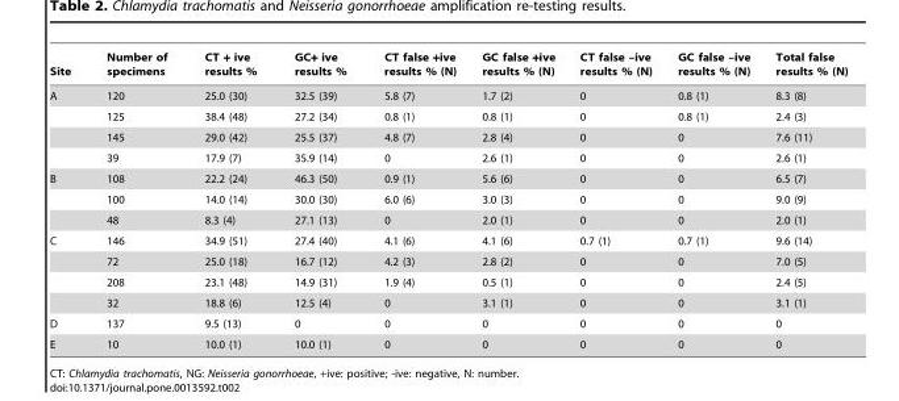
<table><thead><tr><td>Site</td><td>Number of specimens</td><td>CT + ive results %</td><td>GC+ ive results %</td><td>CT false +ive results % (N)</td><td>GC false +ive results % (N)</td><td>CT false –ive results % (N)</td><td>GC false –ive results % (N)</td><td>Total false results % (N)</td></tr></thead><tbody><tr><td rowspan="4">A</td><td>120</td><td>25.0 (30)</td><td>32.5 (39)</td><td>5.8 (7)</td><td>1.7 (2)</td><td>0</td><td>0.8 (1)</td><td>8.3 (8)</td></tr><tr><td>125</td><td>38.4 (48)</td><td>27.2 (34)</td><td>0.8 (1)</td><td>0.8 (1)</td><td>0</td><td>0.8 (1)</td><td>2.4 (3)</td></tr><tr><td>145</td><td>29.0 (42)</td><td>25.5 (37)</td><td>4.8 (7)</td><td>2.8 (4)</td><td>0</td><td>0</td><td>7.6 (11)</td></tr><tr><td>39</td><td>17.9 (7)</td><td>35.9 (14)</td><td>0</td><td>2.6 (1)</td><td>0</td><td>0</td><td>2.6 (1)</td></tr><tr><td rowspan="3">B</td><td>108</td><td>22.2 (24)</td><td>46.3 (50)</td><td>0.9 (1)</td><td>5.6 (6)</td><td>0</td><td>0</td><td>6.5 (7)</td></tr><tr><td>100</td><td>14.0 (14)</td><td>30.0 (30)</td><td>6.0 (6)</td><td>3.0 (3)</td><td>0</td><td>0</td><td>9.0 (9)</td></tr><tr><td>48</td><td>8.3 (4)</td><td>27.1 (13)</td><td>0</td><td>2.0 (1)</td><td>0</td><td>0</td><td>2.0 (1)</td></tr><tr><td rowspan="4">C</td><td>146</td><td>34.9 (51)</td><td>27.4 (40)</td><td>4.1 (6)</td><td>4.1 (6)</td><td>0.7 (1)</td><td>0.7 (1)</td><td>9.6 (14)</td></tr><tr><td>72</td><td>25.0 (18)</td><td>16.7 (12)</td><td>4.2 (3)</td><td>2.8 (2)</td><td>0</td><td>0</td><td>7.0 (5)</td></tr><tr><td>208</td><td>23.1 (48)</td><td>14.9 (31)</td><td>1.9 (4)</td><td>0.5 (1)</td><td>0</td><td>0</td><td>2.4 (5)</td></tr><tr><td>32</td><td>18.8 (6)</td><td>12.5 (4)</td><td>0</td><td>3.1 (1)</td><td>0</td><td>0</td><td>3.1 (1)</td></tr><tr><td>D</td><td>137</td><td>9.5 (13)</td><td>0</td><td>0</td><td>0</td><td>0</td><td>0</td><td>0</td></tr><tr><td>E</td><td>10</td><td>10.0 (1)</td><td>10.0 (1)</td><td>0</td><td>0</td><td>0</td><td>0</td><td>0</td></tr></tbody></table>